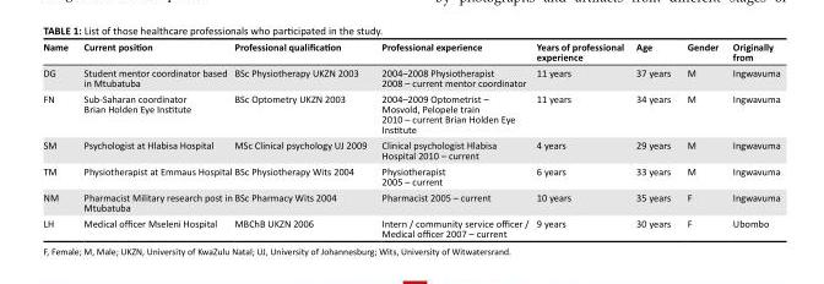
<table><thead><tr><td>Name</td><td>Current position</td><td>Professional qualification</td><td>Professional experience</td><td>Years of professional experience</td><td>Age</td><td>Gender</td><td>Originally from</td></tr></thead><tbody><tr><td>DG</td><td>Student mentor coordinator based in Mtubatuba</td><td>BSc Physiotherapy UKZN 2003</td><td>2004–2008 Physiotherapist 2008 – current mentor coordinator</td><td>11 years</td><td>37 years</td><td>M</td><td>Ingwavuma</td></tr><tr><td>FN</td><td>Sub-Saharan coordinator Brian Holden Eye Institute</td><td>BSc Optometry UKZN 2003</td><td>2004–2009 Optometrist – Mosvold, Pelopele train 2010 – current Brian Holden Eye Institute</td><td>11 years</td><td>34 years</td><td>M</td><td>Ingwavuma</td></tr><tr><td>SM</td><td>Psychologist at Hlabisa Hospital</td><td>MSc Clinical psychology UJ 2009</td><td>Clinical psychologist Hlabisa Hospital 2010 – current</td><td>4 years</td><td>29 years</td><td>M</td><td>Ingwavuma</td></tr><tr><td>TM</td><td>Physiotherapist at Emmaus Hospital</td><td>BSc Physiotherapy Wits 2004</td><td>Physiotherapist 2005 – current</td><td>6 years</td><td>33 years</td><td>M</td><td>Ingwavuma</td></tr><tr><td>NM</td><td>Pharmacist Military research post in Mtubatuba</td><td>BSc Pharmacy Wits 2004</td><td>Pharmacist 2005 – current</td><td>10 years</td><td>35 years</td><td>F</td><td>Ingwavuma</td></tr><tr><td>LH</td><td>Medical officer Mseleni Hospital</td><td>MBChB UKZN 2006</td><td>Intern / community service officer / Medical officer 2007 – current</td><td>9 years</td><td>30 years</td><td>F</td><td>Ubombo</td></tr></tbody></table>